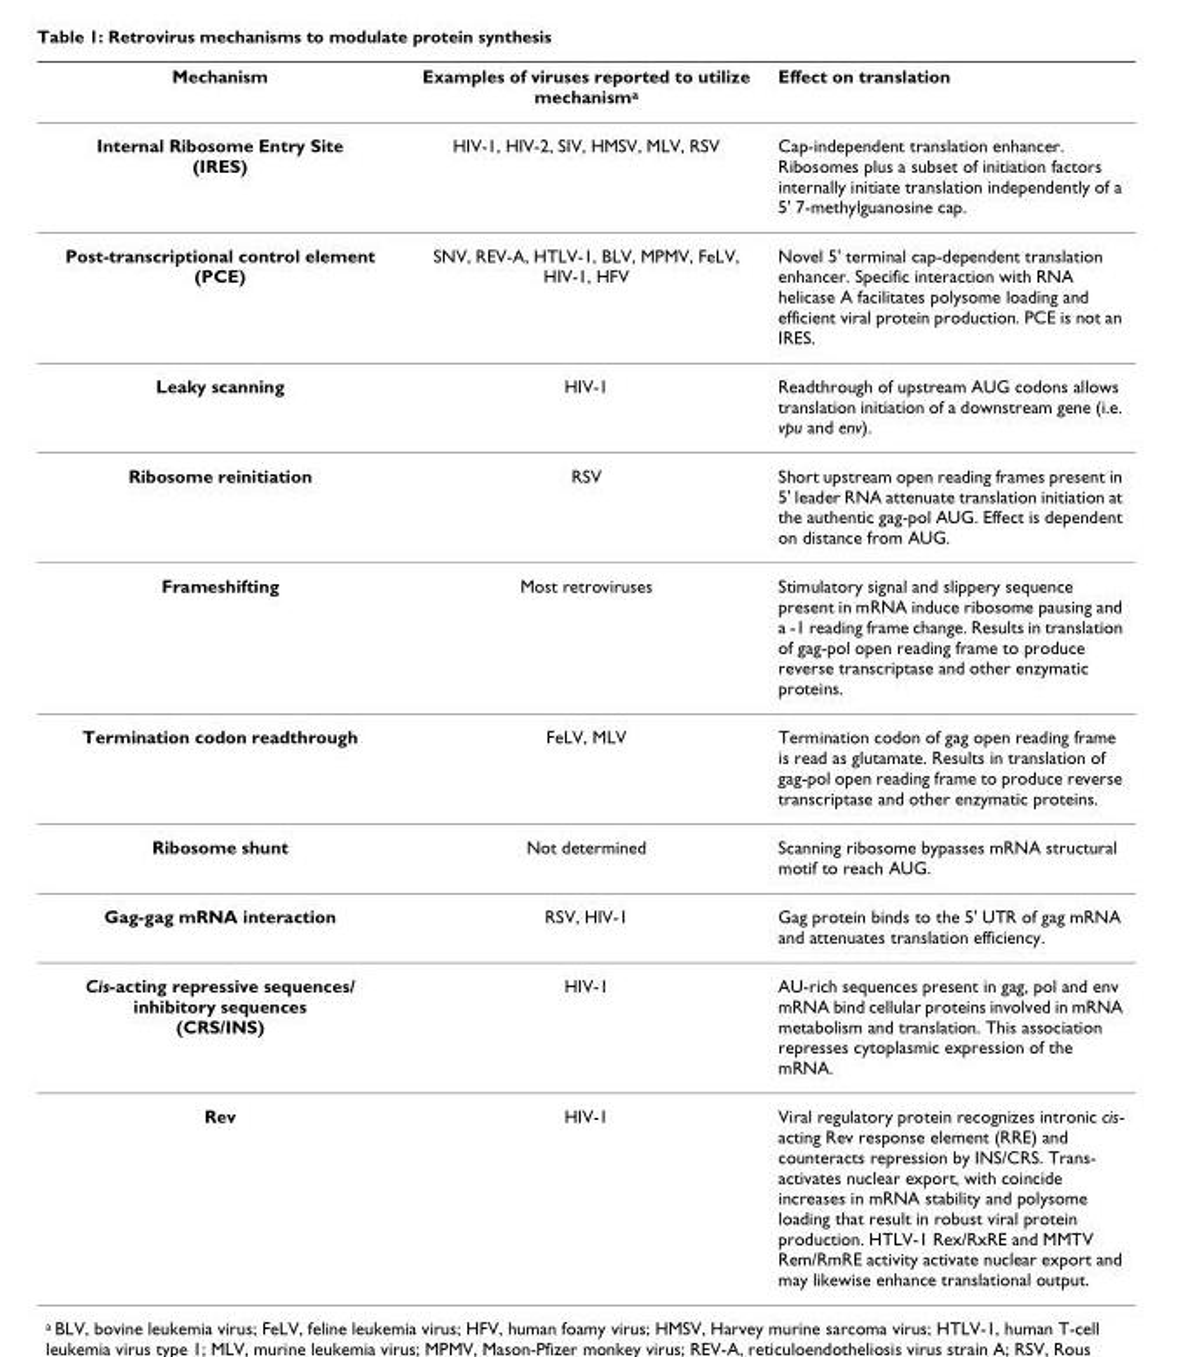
<table><thead><tr><td>Mechanism</td><td>Examples of viruses reported to utilize mechanism<sup>a</sup></td><td>Effect on translation</td></tr></thead><tbody><tr><td>Internal Ribosome Entry Site (IRES)</td><td>HIV-1, HIV-2, SIV, HMSV, MLV, RSV</td><td>Cap-independent translation enhancer. Ribosomes plus a subset of initiation factors internally initiate translation independently of a 5&#x27; 7-methylguanosine cap.</td></tr><tr><td>Post-transcriptional control element (PCE)</td><td>SNV, REV-A, HTLV-1, BLV, MPMV, FeLV, HIV-1, HFV</td><td>Novel 5&#x27; terminal cap-dependent translation enhancer. Specific interaction with RNA helicase A facilitates polysome loading and efficient viral protein production. PCE is not an IRES.</td></tr><tr><td>Leaky scanning</td><td>HIV-1</td><td>Readthrough of upstream AUG codons allows translation initiation of a downstream gene (i.e. vpu and env).</td></tr><tr><td>Ribosome reinitiation</td><td>RSV</td><td>Short upstream open reading frames present in 5&#x27; leader RNA attenuate translation initiation at the authentic gag-pol AUG. Effect is dependent on distance from AUG.</td></tr><tr><td>Frameshifting</td><td>Most retroviruses</td><td>Stimulatory signal and slippery sequence present in mRNA induce ribosome pausing and a -1 reading frame change. Results in translation of gag-pol open reading frame to produce reverse transcriptase and other enzymatic proteins.</td></tr><tr><td>Termination codon readthrough</td><td>FeLV, MLV</td><td>Termination codon of gag open reading frame is read as glutamate. Results in translation of gag-pol open reading frame to produce reverse transcriptase and other enzymatic proteins.</td></tr><tr><td>Ribosome shunt</td><td>Not determined</td><td>Scanning ribosome bypasses mRNA structural motif to reach AUG.</td></tr><tr><td>Gag-gag mRNA interaction</td><td>RSV, HIV-1</td><td>Gag protein binds to the 5&#x27; UTR of gag mRNA and attenuates translation efficiency.</td></tr><tr><td>Cis-acting repressive sequences/ inhibitory sequences (CRS/INS)</td><td>HIV-1</td><td>AU-rich sequences present in gag, pol and env mRNA bind cellular proteins involved in mRNA metabolism and translation. This association represses cytoplasmic expression of the mRNA.</td></tr><tr><td>Rev</td><td>HIV-1</td><td>Viral regulatory protein recognizes intronic cis- acting Rev response element (RRE) and counteracts repression by INS/CRS. Trans- activates nuclear export, with coincide increases in mRNA stability and polysome loading that result in robust viral protein production. HTLV-1 Rex/RxRE and MMTV Rem/RmRE activity activate nuclear export and may likewise enhance translational output.</td></tr></tbody></table>